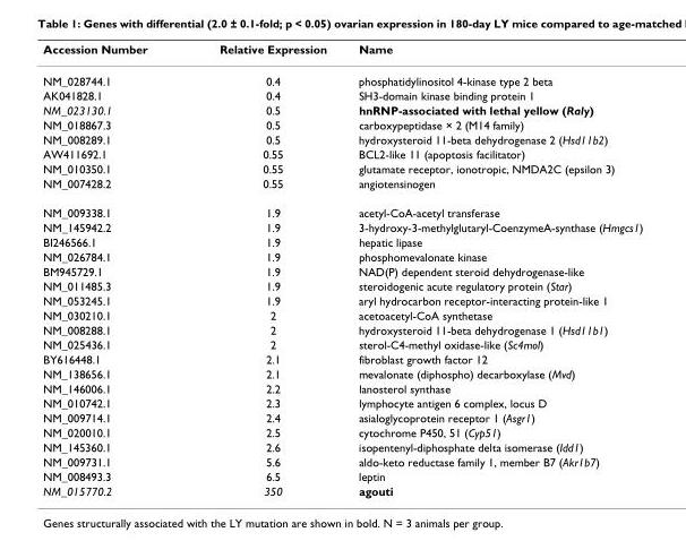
<table><thead><tr><td>Accession Number</td><td>Relative Expression</td><td>Name</td></tr></thead><tbody><tr><td>NM_028744.1</td><td>0.4</td><td>phosphatidylinositol 4-kinase type 2 beta</td></tr><tr><td>AK041828.1</td><td>0.4</td><td>SH3-domain kinase binding protein 1</td></tr><tr><td>NM_023130.1</td><td>0.5</td><td>hnRNP-associated with lethal yellow (Raly)</td></tr><tr><td>NM_018867.3</td><td>0.5</td><td>carboxypeptidase × 2 (M14 family)</td></tr><tr><td>NM_008289.1</td><td>0.5</td><td>hydroxysteroid 11-beta dehydrogenase 2 (Hsd11b2)</td></tr><tr><td>AW411692.1</td><td>0.55</td><td>BCL2-like 11 (apoptosis facilitator)</td></tr><tr><td>NM_010350.1</td><td>0.55</td><td>glutamate receptor, ionotropic, NMDA2C (epsilon 3)</td></tr><tr><td>NM_007428.2</td><td>0.55</td><td>angiotensinogen</td></tr><tr><td>NM_009338.1</td><td>1.9</td><td>acetyl-CoA-acetyl transferase</td></tr><tr><td>NM_145942.2</td><td>1.9</td><td>3-hydroxy-3-methylglutaryl-CoenzymeA-synthase (Hmgcs1)</td></tr><tr><td>BI246566.1</td><td>1.9</td><td>hepatic lipase</td></tr><tr><td>NM_026784.1</td><td>1.9</td><td>phosphomevalonate kinase</td></tr><tr><td>BM945729.1</td><td>1.9</td><td>NAD(P) dependent steroid dehydrogenase-like</td></tr><tr><td>NM_011485.3</td><td>1.9</td><td>steroidogenic acute regulatory protein (Star)</td></tr><tr><td>NM_053245.1</td><td>1.9</td><td>aryl hydrocarbon receptor-interacting protein-like 1</td></tr><tr><td>NM_030210.1</td><td>2</td><td>acetoacetyl-CoA synthetase</td></tr><tr><td>NM_008288.1</td><td>2</td><td>hydroxysteroid 11-beta dehydrogenase 1 (Hsd11b1)</td></tr><tr><td>NM_025436.1</td><td>2</td><td>sterol-C4-methyl oxidase-like (Sc4mol)</td></tr><tr><td>BY616448.1</td><td>2.1</td><td>fibroblast growth factor 12</td></tr><tr><td>NM_138656.1</td><td>2.1</td><td>mevalonate (diphospho) decarboxylase (Mvd)</td></tr><tr><td>NM_146006.1</td><td>2.2</td><td>lanosterol synthase</td></tr><tr><td>NM_010742.1</td><td>2.3</td><td>lymphocyte antigen 6 complex, locus D</td></tr><tr><td>NM_009714.1</td><td>2.4</td><td>asialoglycoprotein receptor 1 (Asgr1)</td></tr><tr><td>NM_020010.1</td><td>2.5</td><td>cytochrome P450, 51 (Cyp51)</td></tr><tr><td>NM_145360.1</td><td>2.6</td><td>isopentenyl-diphosphate delta isomerase (Idd1)</td></tr><tr><td>NM_009731.1</td><td>5.6</td><td>aldo-keto reductase family 1, member B7 (Akr1b7)</td></tr><tr><td>NM_008493.3</td><td>6.5</td><td>leptin</td></tr><tr><td>NM_015770.2</td><td>350</td><td>agouti</td></tr></tbody></table>